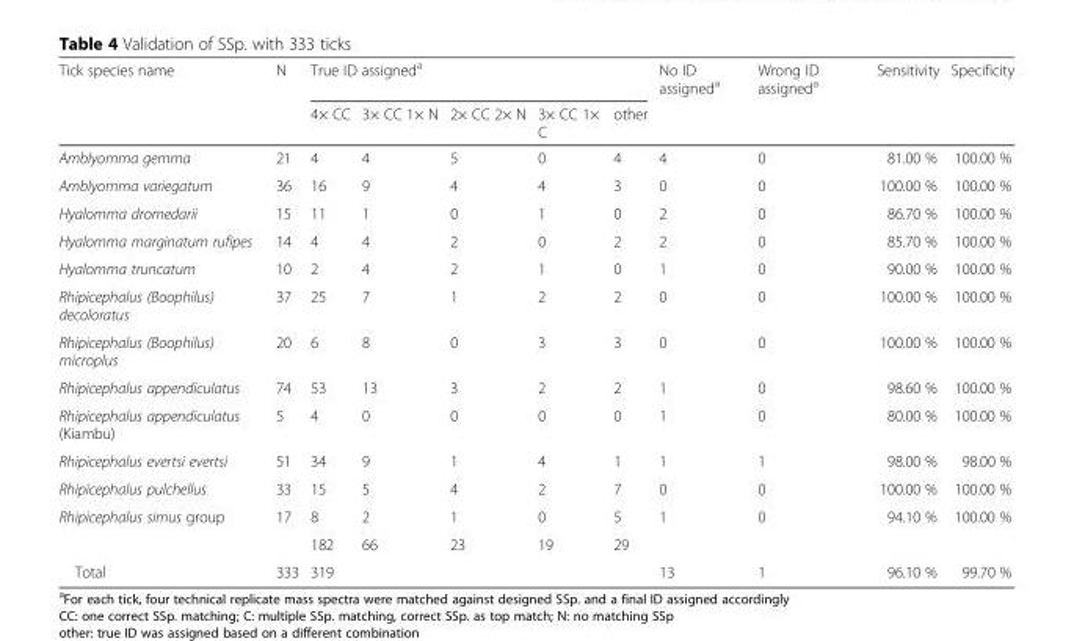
<table><thead><tr><td rowspan="2">Tick species name</td><td rowspan="2">N</td><td colspan="5">True ID assigned<sup>a</sup></td><td rowspan="2">No ID assigned<sup>a</sup></td><td rowspan="2">Wrong ID assigned<sup>a</sup></td><td rowspan="2">Sensitivity</td><td rowspan="2">Specificity</td></tr><tr><td>4× CC</td><td>3× CC 1× N</td><td>2× CC 2× N</td><td>3× CC 1× C</td><td>other</td></tr></thead><tbody><tr><td>Amblyomma gemma</td><td>21</td><td>4</td><td>4</td><td>5</td><td>0</td><td>4</td><td>4</td><td>0</td><td>81.00 %</td><td>100.00 %</td></tr><tr><td>Amblyomma variegatum</td><td>36</td><td>16</td><td>9</td><td>4</td><td>4</td><td>3</td><td>0</td><td>0</td><td>100.00 %</td><td>100.00 %</td></tr><tr><td>Hyalomma dromedarii</td><td>15</td><td>11</td><td>1</td><td>0</td><td>1</td><td>0</td><td>2</td><td>0</td><td>86.70 %</td><td>100.00 %</td></tr><tr><td>Hyalomma marginatum rufipes</td><td>14</td><td>4</td><td>4</td><td>2</td><td>0</td><td>2</td><td>2</td><td>0</td><td>85.70 %</td><td>100.00 %</td></tr><tr><td>Hyalomma truncatum</td><td>10</td><td>2</td><td>4</td><td>2</td><td>1</td><td>0</td><td>1</td><td>0</td><td>90.00 %</td><td>100.00 %</td></tr><tr><td>Rhipicephalus (Boophilus) decoloratus</td><td>37</td><td>25</td><td>7</td><td>1</td><td>2</td><td>2</td><td>0</td><td>0</td><td>100.00 %</td><td>100.00 %</td></tr><tr><td>Rhipicephalus (Boophilus) microplus</td><td>20</td><td>6</td><td>8</td><td>0</td><td>3</td><td>3</td><td>0</td><td>0</td><td>100.00 %</td><td>100.00 %</td></tr><tr><td>Rhipicephalus appendiculatus</td><td>74</td><td>53</td><td>13</td><td>3</td><td>2</td><td>2</td><td>1</td><td>0</td><td>98.60 %</td><td>100.00 %</td></tr><tr><td>Rhipicephalus appendiculatus (Kiambu)</td><td>5</td><td>4</td><td>0</td><td>0</td><td>0</td><td>0</td><td>1</td><td>0</td><td>80.00 %</td><td>100.00 %</td></tr><tr><td>Rhipicephalus evertsi evertsi</td><td>51</td><td>34</td><td>9</td><td>1</td><td>4</td><td>1</td><td>1</td><td>1</td><td>98.00 %</td><td>98.00 %</td></tr><tr><td>Rhipicephalus pulchellus</td><td>33</td><td>15</td><td>5</td><td>4</td><td>2</td><td>7</td><td>0</td><td>0</td><td>100.00 %</td><td>100.00 %</td></tr><tr><td rowspan="2">Rhipicephalus simus group</td><td>17</td><td>8</td><td>2</td><td>1</td><td>0</td><td>5</td><td>1</td><td>0</td><td>94.10 %</td><td>100.00 %</td></tr><tr><td></td><td>182</td><td>66</td><td>23</td><td>19</td><td>29</td><td></td><td></td><td></td><td></td></tr><tr><td>Total</td><td>333</td><td>319</td><td></td><td></td><td></td><td></td><td>13</td><td>1</td><td>96.10 %</td><td>99.70 %</td></tr></tbody></table>